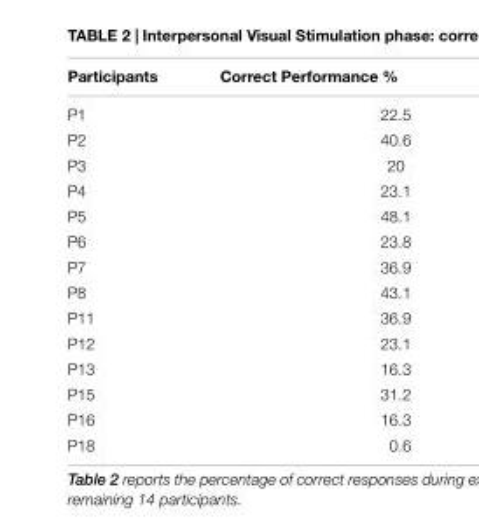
<table><thead><tr><td>Participants</td><td>Correct Performance %</td></tr></thead><tbody><tr><td>P1</td><td>22.5</td></tr><tr><td>P2</td><td>40.6</td></tr><tr><td>P3</td><td>20</td></tr><tr><td>P4</td><td>23.1</td></tr><tr><td>P5</td><td>48.1</td></tr><tr><td>P6</td><td>23.8</td></tr><tr><td>P7</td><td>36.9</td></tr><tr><td>P8</td><td>43.1</td></tr><tr><td>P11</td><td>36.9</td></tr><tr><td>P12</td><td>23.1</td></tr><tr><td>P13</td><td>16.3</td></tr><tr><td>P15</td><td>31.2</td></tr><tr><td>P16</td><td>16.3</td></tr><tr><td>P18</td><td>0.6</td></tr></tbody></table>